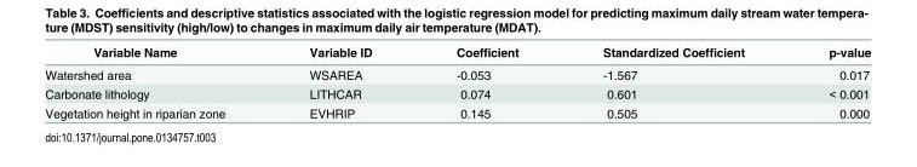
<table><thead><tr><td>Variable Name</td><td>Variable ID</td><td>Coefficient</td><td>Standardized Coefficient</td><td>p-value</td></tr></thead><tbody><tr><td>Watershed area</td><td>WSAREA</td><td>-0.053</td><td>-1.567</td><td>0.017</td></tr><tr><td>Carbonate lithology</td><td>LITHCAR</td><td>0.074</td><td>0.601</td><td>&lt; 0.001</td></tr><tr><td>Vegetation height in riparian zone</td><td>EVHRIP</td><td>0.145</td><td>0.505</td><td>0.000</td></tr></tbody></table>